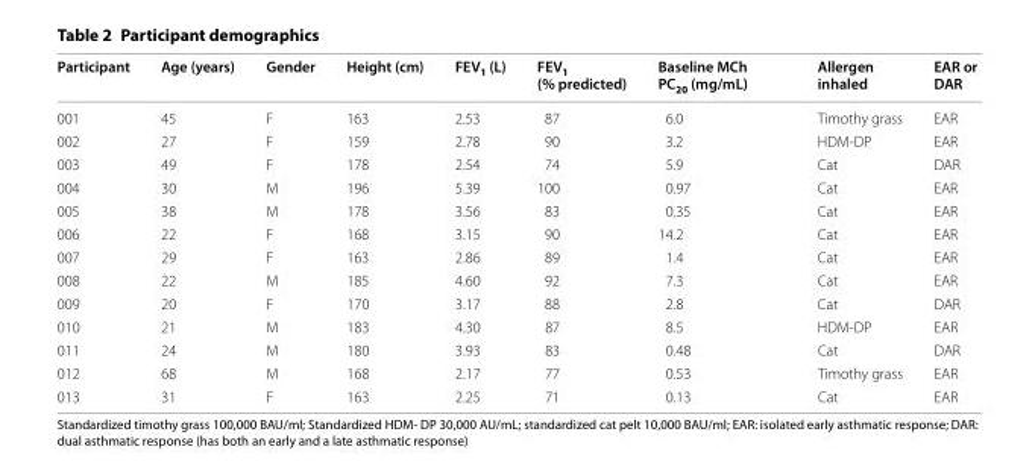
<table><thead><tr><td>Participant</td><td>Age (years)</td><td>Gender</td><td>Height (cm)</td><td>FEV<sub>1</sub> (L)</td><td>FEV<sub>1</sub> (% predicted)</td><td>Baseline MCh PC<sub>20</sub> (mg/mL)</td><td>Allergen inhaled</td><td>EAR or DAR</td></tr></thead><tbody><tr><td>001</td><td>45</td><td>F</td><td>163</td><td>2.53</td><td>87</td><td>6.0</td><td>Timothy grass</td><td>EAR</td></tr><tr><td>002</td><td>27</td><td>F</td><td>159</td><td>2.78</td><td>90</td><td>3.2</td><td>HDM-DP</td><td>EAR</td></tr><tr><td>003</td><td>49</td><td>F</td><td>178</td><td>2.54</td><td>74</td><td>5.9</td><td>Cat</td><td>DAR</td></tr><tr><td>004</td><td>30</td><td>M</td><td>196</td><td>5.39</td><td>100</td><td>0.97</td><td>Cat</td><td>EAR</td></tr><tr><td>005</td><td>38</td><td>M</td><td>178</td><td>3.56</td><td>83</td><td>0.35</td><td>Cat</td><td>EAR</td></tr><tr><td>006</td><td>22</td><td>F</td><td>168</td><td>3.15</td><td>90</td><td>14.2</td><td>Cat</td><td>EAR</td></tr><tr><td>007</td><td>29</td><td>F</td><td>163</td><td>2.86</td><td>89</td><td>1.4</td><td>Cat</td><td>EAR</td></tr><tr><td>008</td><td>22</td><td>M</td><td>185</td><td>4.60</td><td>92</td><td>7.3</td><td>Cat</td><td>EAR</td></tr><tr><td>009</td><td>20</td><td>F</td><td>170</td><td>3.17</td><td>88</td><td>2.8</td><td>Cat</td><td>DAR</td></tr><tr><td>010</td><td>21</td><td>M</td><td>183</td><td>4.30</td><td>87</td><td>8.5</td><td>HDM-DP</td><td>EAR</td></tr><tr><td>011</td><td>24</td><td>M</td><td>180</td><td>3.93</td><td>83</td><td>0.48</td><td>Cat</td><td>DAR</td></tr><tr><td>012</td><td>68</td><td>M</td><td>168</td><td>2.17</td><td>77</td><td>0.53</td><td>Timothy grass</td><td>EAR</td></tr><tr><td>013</td><td>31</td><td>F</td><td>163</td><td>2.25</td><td>71</td><td>0.13</td><td>Cat</td><td>EAR</td></tr></tbody></table>